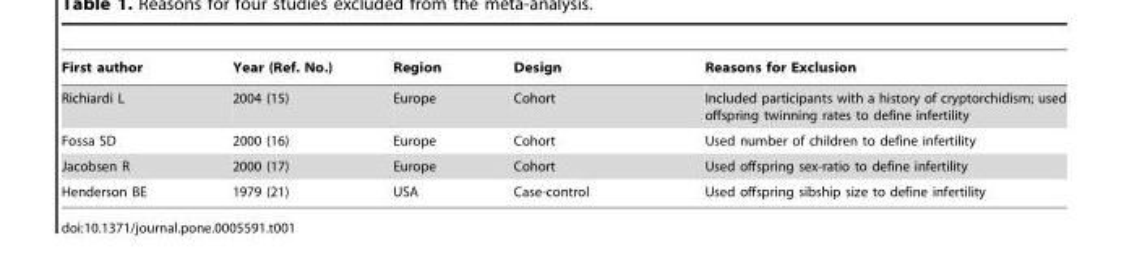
<table><thead><tr><td>First author</td><td>Year (Ref. No.)</td><td>Region</td><td>Design</td><td>Reasons for Exclusion</td></tr></thead><tbody><tr><td>Richiardi L</td><td>2004 (15)</td><td>Europe</td><td>Cohort</td><td>Included participants with a history of cryptorchidism; used offspring twinning rates to define infertility</td></tr><tr><td>Fossa SD</td><td>2000 (16)</td><td>Europe</td><td>Cohort</td><td>Used number of children to define infertility</td></tr><tr><td>Jacobsen R</td><td>2000 (17)</td><td>Europe</td><td>Cohort</td><td>Used offspring sex-ratio to define infertility</td></tr><tr><td>Henderson BE</td><td>1979 (21)</td><td>USA</td><td>Case-control</td><td>Used offspring sibship size to define infertility</td></tr></tbody></table>